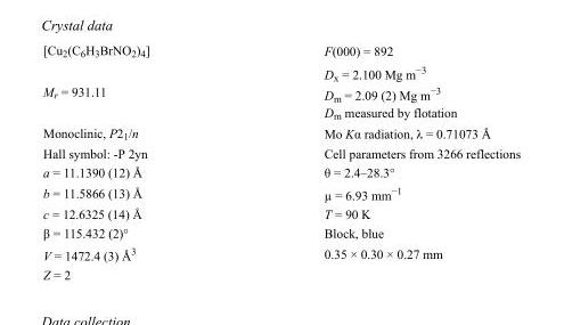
<table><tbody><tr><td>[Cu<sub>2</sub>(C<sub>6</sub>H<sub>3</sub>BrNO<sub>2</sub>)<sub>4</sub>]</td><td>F(000) = 892</td></tr><tr><td>M<sub>r</sub> = 931.11</td><td>D<sub>x</sub> = 2.100 Mg m<sup>−3</sup> D<sub>m</sub> = 2.09 (2) Mg m<sup>−3</sup> D<sub>m</sub> measured by flotation</td></tr><tr><td>Monoclinic, P2<sub>1</sub>/n</td><td>Mo Kα radiation, λ = 0.71073 Å</td></tr><tr><td>Hall symbol: -P 2yn</td><td>Cell parameters from 3266 reflections</td></tr><tr><td>a = 11.1390 (12) Å</td><td>θ = 2.4–28.3°</td></tr><tr><td>b = 11.5866 (13) Å</td><td>µ = 6.93 mm<sup>−1</sup></td></tr><tr><td>c = 12.6325 (14) Å</td><td>T = 90 K</td></tr><tr><td>β = 115.432 (2)°</td><td>Block, blue</td></tr><tr><td>V = 1472.4 (3) Å<sup>3</sup></td><td>0.35 × 0.30 × 0.27 mm</td></tr><tr><td>Z = 2</td><td></td></tr></tbody></table>